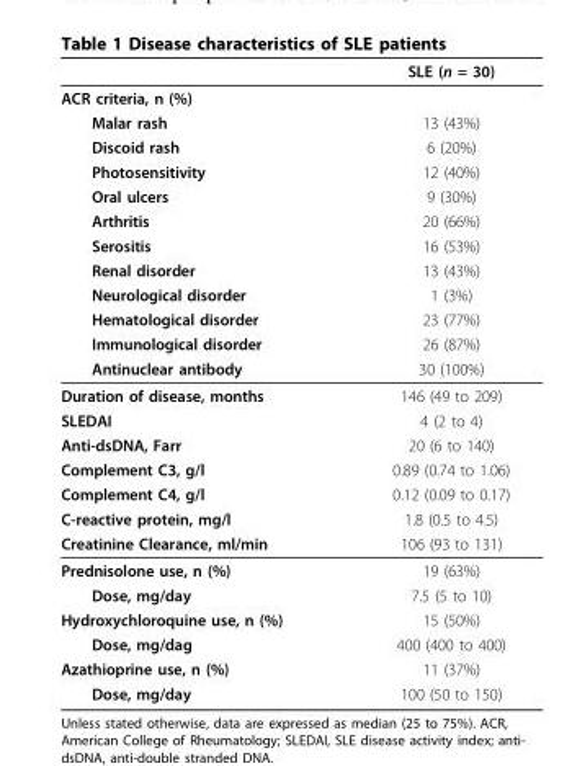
<table><thead><tr><td></td><td>SLE (n = 30)</td></tr></thead><tbody><tr><td colspan="2">ACR criteria, n (%)</td></tr><tr><td>Malar rash</td><td>13 (43%)</td></tr><tr><td>Discoid rash</td><td>6 (20%)</td></tr><tr><td>Photosensitivity</td><td>12 (40%)</td></tr><tr><td>Oral ulcers</td><td>9 (30%)</td></tr><tr><td>Arthritis</td><td>20 (66%)</td></tr><tr><td>Serositis</td><td>16 (53%)</td></tr><tr><td>Renal disorder</td><td>13 (43%)</td></tr><tr><td>Neurological disorder</td><td>1 (3%)</td></tr><tr><td>Hematological disorder</td><td>23 (77%)</td></tr><tr><td>Immunological disorder</td><td>26 (87%)</td></tr><tr><td>Antinuclear antibody</td><td>30 (100%)</td></tr><tr><td>Duration of disease, months</td><td>146 (49 to 209)</td></tr><tr><td>SLEDAI</td><td>4 (2 to 4)</td></tr><tr><td>Anti-dsDNA, Farr</td><td>20 (6 to 140)</td></tr><tr><td>Complement C3, g/l</td><td>0.89 (0.74 to 1.06)</td></tr><tr><td>Complement C4, g/l</td><td>0.12 (0.09 to 0.17)</td></tr><tr><td>C-reactive protein, mg/l</td><td>1.8 (0.5 to 4.5)</td></tr><tr><td>Creatinine Clearance, ml/min</td><td>106 (93 to 131)</td></tr><tr><td>Prednisolone use, n (%)</td><td>19 (63%)</td></tr><tr><td>Dose, mg/day</td><td>7.5 (5 to 10)</td></tr><tr><td>Hydroxychloroquine use, n (%)</td><td>15 (50%)</td></tr><tr><td>Dose, mg/dag</td><td>400 (400 to 400)</td></tr><tr><td>Azathioprine use, n (%)</td><td>11 (37%)</td></tr><tr><td>Dose, mg/day</td><td>100 (50 to 150)</td></tr></tbody></table>